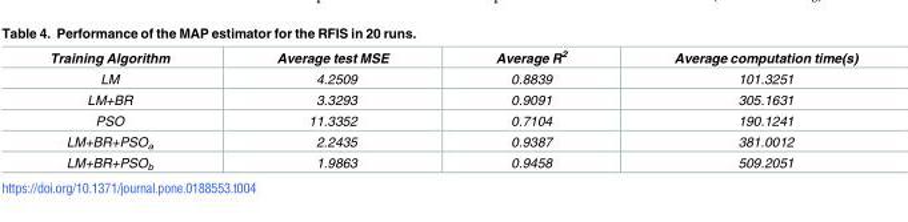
<table><thead><tr><td>Training Algorithm</td><td>Average test MSE</td><td>Average R<sup>2</sup></td><td>Average computation time(s)</td></tr></thead><tbody><tr><td>LM</td><td>4.2509</td><td>0.8839</td><td>101.3251</td></tr><tr><td>LM+BR</td><td>3.3293</td><td>0.9091</td><td>305.1631</td></tr><tr><td>PSO</td><td>11.3352</td><td>0.7104</td><td>190.1241</td></tr><tr><td>LM+BR+PSO<sub>a</sub></td><td>2.2435</td><td>0.9387</td><td>381.0012</td></tr><tr><td>LM+BR+PSO<sub>b</sub></td><td>1.9863</td><td>0.9458</td><td>509.2051</td></tr></tbody></table>